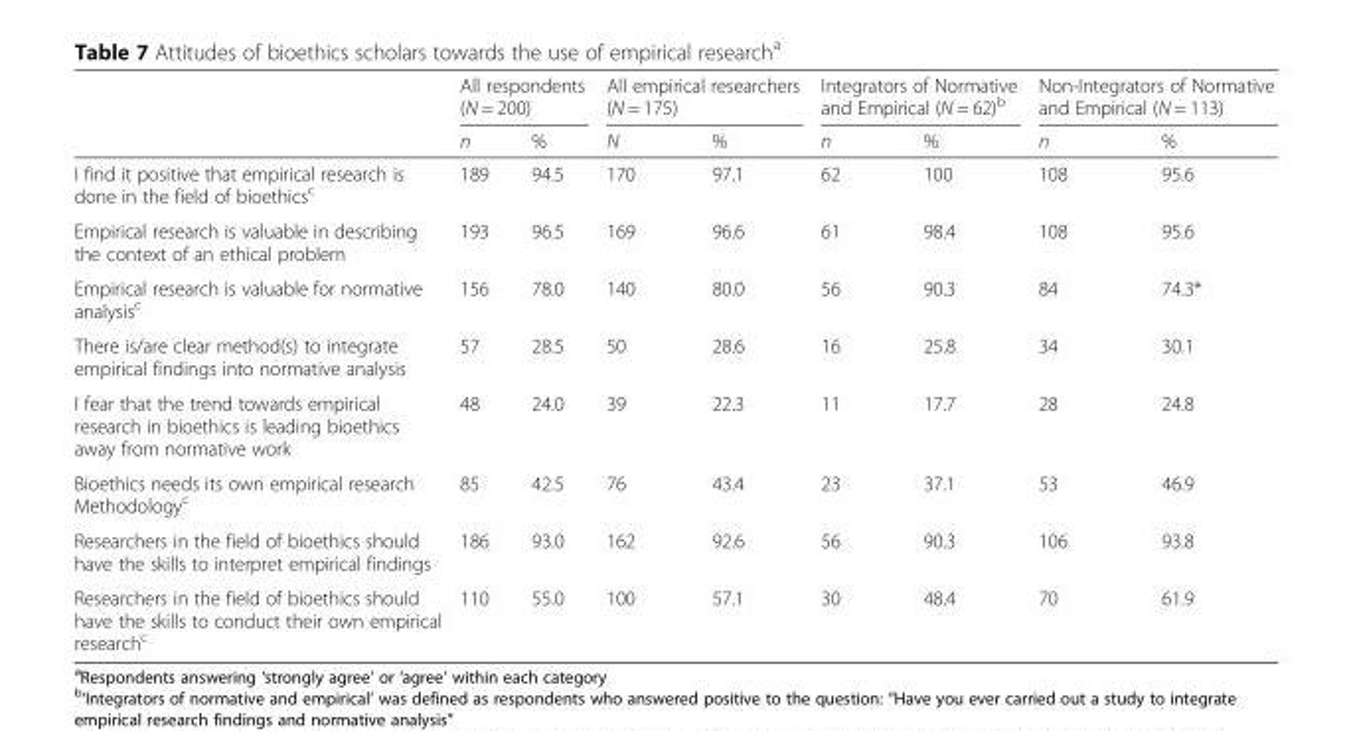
<table><thead><tr><td rowspan="2"></td><td colspan="2">All respondents (N = 200)</td><td colspan="2">All empirical researchers (N = 175)</td><td colspan="2">Integrators of Normative and Empirical (N = 62)<sup>b</sup></td><td colspan="2">Non-Integrators of Normative and Empirical (N = 113)</td></tr><tr><td>n</td><td>%</td><td>N</td><td>%</td><td>n</td><td>%</td><td>n</td><td>%</td></tr></thead><tbody><tr><td>I find it positive that empirical research is done in the field of bioethics<sup>c</sup></td><td>189</td><td>94.5</td><td>170</td><td>97.1</td><td>62</td><td>100</td><td>108</td><td>95.6</td></tr><tr><td>Empirical research is valuable in describing the context of an ethical problem</td><td>193</td><td>96.5</td><td>169</td><td>96.6</td><td>61</td><td>98.4</td><td>108</td><td>95.6</td></tr><tr><td>Empirical research is valuable for normative analysis<sup>c</sup></td><td>156</td><td>78.0</td><td>140</td><td>80.0</td><td>56</td><td>90.3</td><td>84</td><td>74.3*</td></tr><tr><td>There is/are clear method(s) to integrate empirical findings into normative analysis</td><td>57</td><td>28.5</td><td>50</td><td>28.6</td><td>16</td><td>25.8</td><td>34</td><td>30.1</td></tr><tr><td>I fear that the trend towards empirical research in bioethics is leading bioethics away from normative work</td><td>48</td><td>24.0</td><td>39</td><td>22.3</td><td>11</td><td>17.7</td><td>28</td><td>24.8</td></tr><tr><td>Bioethics needs its own empirical research Methodology<sup>c</sup></td><td>85</td><td>42.5</td><td>76</td><td>43.4</td><td>23</td><td>37.1</td><td>53</td><td>46.9</td></tr><tr><td>Researchers in the field of bioethics should have the skills to interpret empirical findings</td><td>186</td><td>93.0</td><td>162</td><td>92.6</td><td>56</td><td>90.3</td><td>106</td><td>93.8</td></tr><tr><td>Researchers in the field of bioethics should have the skills to conduct their own empirical research<sup>c</sup></td><td>110</td><td>55.0</td><td>100</td><td>57.1</td><td>30</td><td>48.4</td><td>70</td><td>61.9</td></tr></tbody></table>